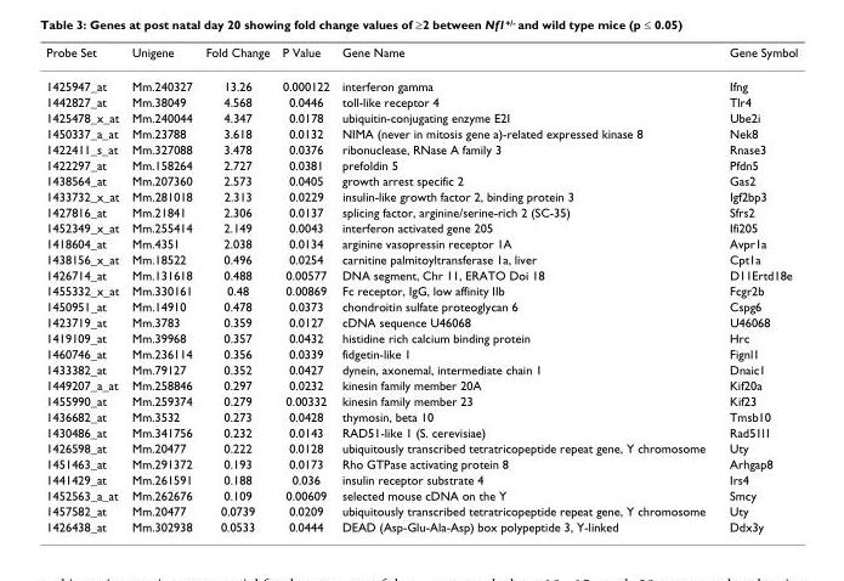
<table><thead><tr><td>Probe Set</td><td>Unigene</td><td>Fold Change</td><td>P Value</td><td>Gene Name</td><td>Gene Symbol</td></tr></thead><tbody><tr><td>1425947_at</td><td>Mm.240327</td><td>13.26</td><td>0.000122</td><td>interferon gamma</td><td>Ifng</td></tr><tr><td>1442827_at</td><td>Mm.38049</td><td>4.568</td><td>0.0446</td><td>toll-like receptor 4</td><td>Tlr4</td></tr><tr><td>1425478_x_at</td><td>Mm.240044</td><td>4.347</td><td>0.0178</td><td>ubiquitin-conjugating enzyme E2I</td><td>Ube2i</td></tr><tr><td>1450337_a_at</td><td>Mm.23788</td><td>3.618</td><td>0.0132</td><td>NIMA (never in mitosis gene a)-related expressed kinase 8</td><td>Nek8</td></tr><tr><td>1422411_s_at</td><td>Mm.327088</td><td>3.478</td><td>0.0376</td><td>ribonuclease, RNase A family 3</td><td>Rnase3</td></tr><tr><td>1422297_at</td><td>Mm.158264</td><td>2.727</td><td>0.0381</td><td>prefoldin 5</td><td>Pfdn5</td></tr><tr><td>1438564_at</td><td>Mm.207360</td><td>2.573</td><td>0.0405</td><td>growth arrest specific 2</td><td>Gas2</td></tr><tr><td>1433732_x_at</td><td>Mm.281018</td><td>2.313</td><td>0.0229</td><td>insulin-like growth factor 2, binding protein 3</td><td>Igf2bp3</td></tr><tr><td>1427816_at</td><td>Mm.21841</td><td>2.306</td><td>0.0137</td><td>splicing factor, arginine/serine-rich 2 (SC-35)</td><td>Sfrs2</td></tr><tr><td>1452349_x_at</td><td>Mm.255414</td><td>2.149</td><td>0.0043</td><td>interferon activated gene 205</td><td>Ifi205</td></tr><tr><td>1418604_at</td><td>Mm.4351</td><td>2.038</td><td>0.0134</td><td>arginine vasopressin receptor 1A</td><td>Avpr1a</td></tr><tr><td>1438156_x_at</td><td>Mm.18522</td><td>0.496</td><td>0.0254</td><td>carnitine palmitoyltransferase 1a, liver</td><td>Cpt1a</td></tr><tr><td>1426714_at</td><td>Mm.131618</td><td>0.488</td><td>0.00577</td><td>DNA segment, Chr 11, ERATO Doi 18</td><td>D11Ertd18e</td></tr><tr><td>1455332_x_at</td><td>Mm.330161</td><td>0.48</td><td>0.00869</td><td>Fc receptor, IgG, low affinity IIb</td><td>Fcgr2b</td></tr><tr><td>1450951_at</td><td>Mm.14910</td><td>0.478</td><td>0.0373</td><td>chondroitin sulfate proteoglycan 6</td><td>Cspg6</td></tr><tr><td>1423719_at</td><td>Mm.3783</td><td>0.359</td><td>0.0127</td><td>cDNA sequence U46068</td><td>U46068</td></tr><tr><td>1419109_at</td><td>Mm.39968</td><td>0.357</td><td>0.0432</td><td>histidine rich calcium binding protein</td><td>Hrc</td></tr><tr><td>1460746_at</td><td>Mm.236114</td><td>0.356</td><td>0.0339</td><td>fidgetin-like 1</td><td>Fignl1</td></tr><tr><td>1433382_at</td><td>Mm.79127</td><td>0.352</td><td>0.0427</td><td>dynein, axonemal, intermediate chain 1</td><td>Dnaic1</td></tr><tr><td>1449207_a_at</td><td>Mm.258846</td><td>0.297</td><td>0.0232</td><td>kinesin family member 20A</td><td>Kif20a</td></tr><tr><td>1455990_at</td><td>Mm.259374</td><td>0.279</td><td>0.00332</td><td>kinesin family member 23</td><td>Kif23</td></tr><tr><td>1436682_at</td><td>Mm.3532</td><td>0.273</td><td>0.0428</td><td>thymosin, beta 10</td><td>Tmsb10</td></tr><tr><td>1430486_at</td><td>Mm.341756</td><td>0.232</td><td>0.0143</td><td>RAD51-like 1 (S. cerevisiae)</td><td>Rad51l1</td></tr><tr><td>1426598_at</td><td>Mm.20477</td><td>0.222</td><td>0.0128</td><td>ubiquitously transcribed tetratricopeptide repeat gene, Y chromosome</td><td>Uty</td></tr><tr><td>1451463_at</td><td>Mm.291372</td><td>0.193</td><td>0.0173</td><td>Rho GTPase activating protein 8</td><td>Arhgap8</td></tr><tr><td>1441429_at</td><td>Mm.261591</td><td>0.188</td><td>0.036</td><td>insulin receptor substrate 4</td><td>Irs4</td></tr><tr><td>1452563_a_at</td><td>Mm.262676</td><td>0.109</td><td>0.00609</td><td>selected mouse cDNA on the Y</td><td>Smcy</td></tr><tr><td>1457582_at</td><td>Mm.20477</td><td>0.0739</td><td>0.0209</td><td>ubiquitously transcribed tetratricopeptide repeat gene, Y chromosome</td><td>Uty</td></tr><tr><td>1426438_at</td><td>Mm.302938</td><td>0.0533</td><td>0.0444</td><td>DEAD (Asp-Glu-Ala-Asp) box polypeptide 3, Y-linked</td><td>Ddx3y</td></tr></tbody></table>